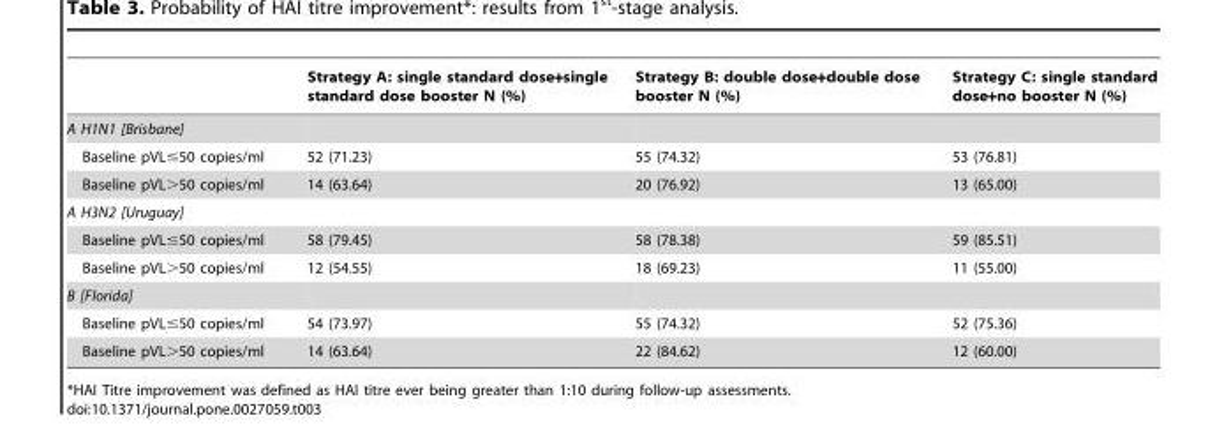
<table><thead><tr><td></td><td>Strategy A: single standard dose+single standard dose booster N (%)</td><td>Strategy B: double dose+double dose booster N (%)</td><td>Strategy C: single standard dose+no booster N (%)</td></tr></thead><tbody><tr><td colspan="4">A H1N1 [Brisbane]</td></tr><tr><td>Baseline pVL≤50 copies/ml</td><td>52 (71.23)</td><td>55 (74.32)</td><td>53 (76.81)</td></tr><tr><td>Baseline pVL&gt;50 copies/ml</td><td>14 (63.64)</td><td>20 (76.92)</td><td>13 (65.00)</td></tr><tr><td colspan="4">A H3N2 [Uruguay]</td></tr><tr><td>Baseline pVL≤50 copies/ml</td><td>58 (79.45)</td><td>58 (78.38)</td><td>59 (85.51)</td></tr><tr><td>Baseline pVL&gt;50 copies/ml</td><td>12 (54.55)</td><td>18 (69.23)</td><td>11 (55.00)</td></tr><tr><td colspan="4">B [Florida]</td></tr><tr><td>Baseline pVL≤50 copies/ml</td><td>54 (73.97)</td><td>55 (74.32)</td><td>52 (75.36)</td></tr><tr><td>Baseline pVL&gt;50 copies/ml</td><td>14 (63.64)</td><td>22 (84.62)</td><td>12 (60.00)</td></tr></tbody></table>